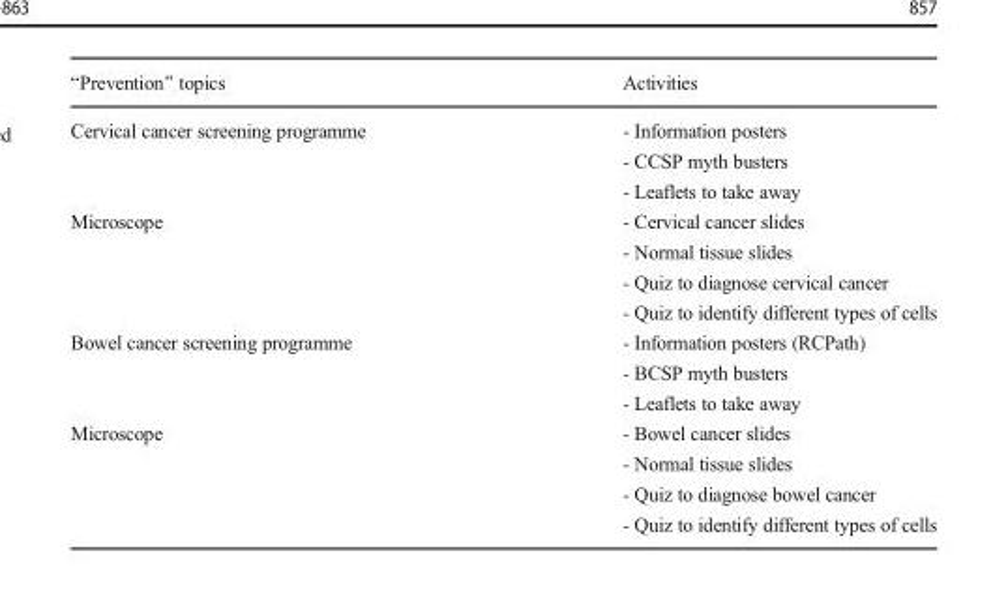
<table><thead><tr><td>“Prevention” topics</td><td>Activities</td></tr></thead><tbody><tr><td>Cervical cancer screening programme</td><td>- Information posters - CCSP myth busters - Leaflets to take away</td></tr><tr><td>Microscope</td><td>- Cervical cancer slides - Normal tissue slides - Quiz to diagnose cervical cancer - Quiz to identify different types of cells</td></tr><tr><td>Bowel cancer screening programme</td><td>- Information posters (RCPath) - BCSP myth busters - Leaflets to take away</td></tr><tr><td>Microscope</td><td>- Bowel cancer slides - Normal tissue slides - Quiz to diagnose bowel cancer - Quiz to identify different types of cells</td></tr></tbody></table>